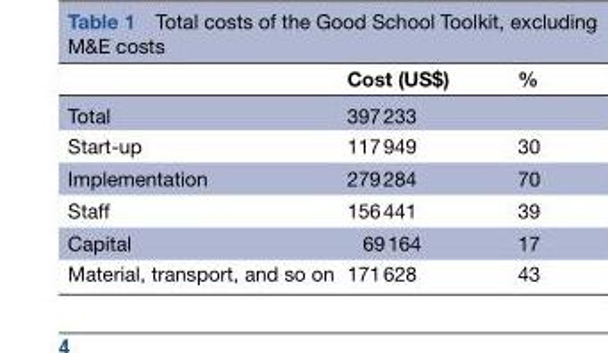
<table><thead><tr><td></td><td>Cost (US$)</td><td>%</td></tr></thead><tbody><tr><td>Total</td><td>397 233</td><td></td></tr><tr><td>Start-up</td><td>117 949</td><td>30</td></tr><tr><td>Implementation</td><td>279 284</td><td>70</td></tr><tr><td>Staff</td><td>156 441</td><td>39</td></tr><tr><td>Capital</td><td>69 164</td><td>17</td></tr><tr><td>Material, transport, and so on</td><td>171 628</td><td>43</td></tr></tbody></table>